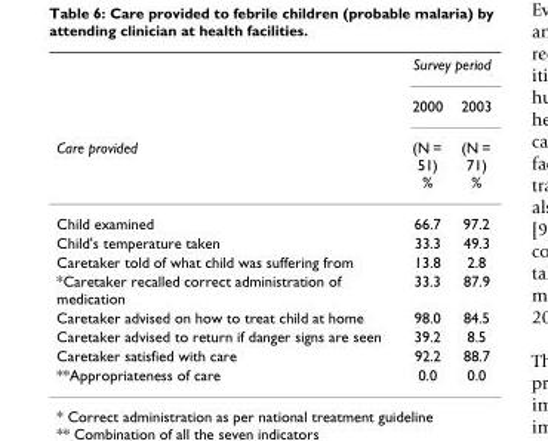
<table><thead><tr><td rowspan="3">Care provided</td><td colspan="2">Survey period</td></tr><tr><td rowspan="2">2000 (N = 51) %</td><td rowspan="2">2003 (N = 71) %</td></tr><tr></tr></thead><tbody><tr><td>Child examined</td><td>66.7</td><td>97.2</td></tr><tr><td>Child&#x27;s temperature taken</td><td>33.3</td><td>49.3</td></tr><tr><td>Caretaker told of what child was suffering from</td><td>13.8</td><td>2.8</td></tr><tr><td>*Caretaker recalled correct administration of medication</td><td>33.3</td><td>87.9</td></tr><tr><td>Caretaker advised on how to treat child at home</td><td>98.0</td><td>84.5</td></tr><tr><td>Caretaker advised to return if danger signs are seen</td><td>39.2</td><td>8.5</td></tr><tr><td>Caretaker satisfied with care</td><td>92.2</td><td>88.7</td></tr><tr><td>**Appropriateness of care</td><td>0.0</td><td>0.0</td></tr></tbody></table>